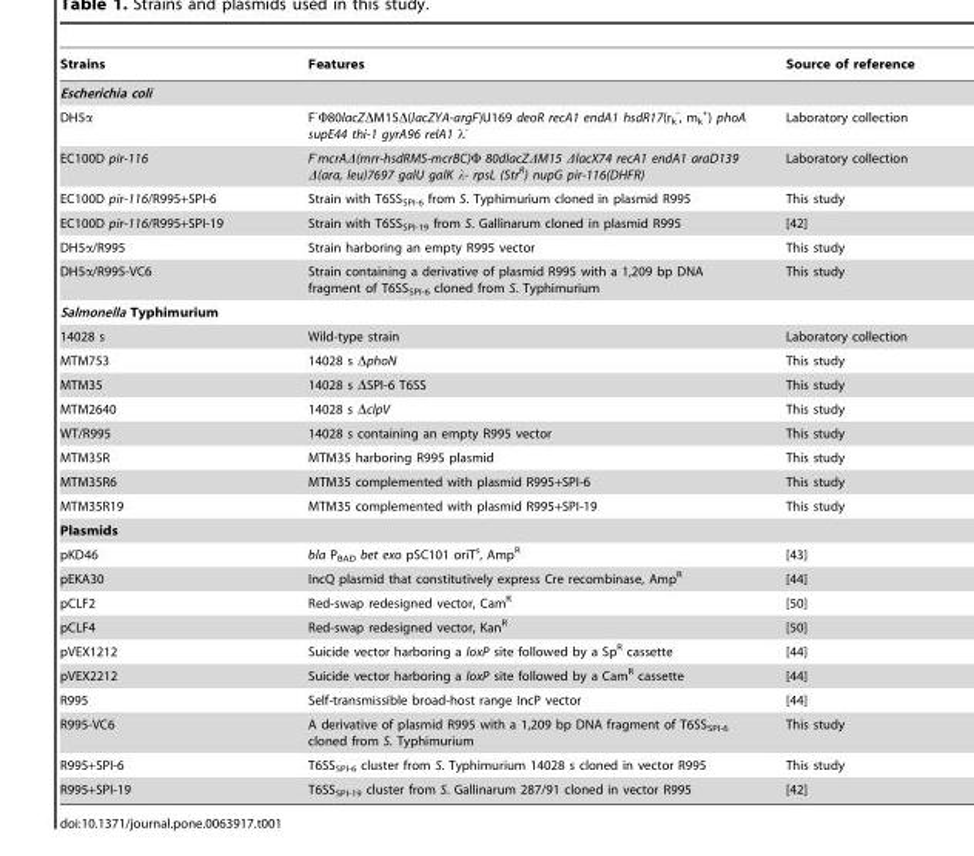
<table><thead><tr><td>Strains</td><td>Features</td><td>Source of reference</td></tr></thead><tbody><tr><td colspan="3">Escherichia coli</td></tr><tr><td>DH5α</td><td>F<sup>-</sup>Φ80lacZΔM15Δ(lacZYA-argF)U169 deoR recA1 endA1 hsdR17(r<sub>k</sub> <sup>-</sup>, m<sub>k</sub> <sup>+</sup>) phoA supE44 thi-1 gyrA96 relA1 λ<sup>-</sup></td><td>Laboratory collection</td></tr><tr><td>EC100D pir-116</td><td>F<sup>-</sup>mcrAΔ(mrr-hsdRMS-mcrBC)Φ 80dlacZΔM15 ΔlacX74 recA1 endA1 araD139 Δ(ara, leu)7697 galU galK λ- rpsL (Str<sup>R</sup>) nupG pir-116(DHFR)</td><td>Laboratory collection</td></tr><tr><td>EC100D pir-116/R995+SPI-6</td><td>Strain with T6SS<sub>SPI-6</sub> from S. Typhimurium cloned in plasmid R995</td><td>This study</td></tr><tr><td>EC100D pir-116/R995+SPI-19</td><td>Strain with T6SS<sub>SPI-19</sub> from S. Gallinarum cloned in plasmid R995</td><td>[42]</td></tr><tr><td>DH5α/R995</td><td>Strain harboring an empty R995 vector</td><td>This study</td></tr><tr><td>DH5α/R995-VC6</td><td>Strain containing a derivative of plasmid R995 with a 1,209 bp DNA fragment of T6SS<sub>SPI-6</sub> cloned from S. Typhimurium</td><td>This study</td></tr><tr><td colspan="3">Salmonella Typhimurium</td></tr><tr><td>14028 s</td><td>Wild-type strain</td><td>Laboratory collection</td></tr><tr><td>MTM753</td><td>14028 s ΔphoN</td><td>This study</td></tr><tr><td>MTM35</td><td>14028 s ΔSPI-6 T6SS</td><td>This study</td></tr><tr><td>MTM2640</td><td>14028 s ΔclpV</td><td>This study</td></tr><tr><td>WT/R995</td><td>14028 s containing an empty R995 vector</td><td>This study</td></tr><tr><td>MTM35R</td><td>MTM35 harboring R995 plasmid</td><td>This study</td></tr><tr><td>MTM35R6</td><td>MTM35 complemented with plasmid R995+SPI-6</td><td>This study</td></tr><tr><td>MTM35R19</td><td>MTM35 complemented with plasmid R995+SPI-19</td><td>This study</td></tr><tr><td colspan="3">Plasmids</td></tr><tr><td>pKD46</td><td>bla P<sub>BAD</sub> bet exo pSC101 oriT<sup>s</sup>, Amp<sup>R</sup></td><td>[43]</td></tr><tr><td>pEKA30</td><td>IncQ plasmid that constitutively express Cre recombinase, Amp<sup>R</sup></td><td>[44]</td></tr><tr><td>pCLF2</td><td>Red-swap redesigned vector, Cam<sup>R</sup></td><td>[50]</td></tr><tr><td>pCLF4</td><td>Red-swap redesigned vector, Kan<sup>R</sup></td><td>[50]</td></tr><tr><td>pVEX1212</td><td>Suicide vector harboring a loxP site followed by a Sp<sup>R</sup> cassette</td><td>[44]</td></tr><tr><td>pVEX2212</td><td>Suicide vector harboring a loxP site followed by a Cam<sup>R</sup> cassette</td><td>[44]</td></tr><tr><td>R995</td><td>Self-transmissible broad-host range IncP vector</td><td>[44]</td></tr><tr><td>R995-VC6</td><td>A derivative of plasmid R995 with a 1,209 bp DNA fragment of T6SS<sub>SPI-6</sub> cloned from S. Typhimurium</td><td>This study</td></tr><tr><td>R995+SPI-6</td><td>T6SSSPI-6 cluster from S. Typhimurium 14028 s cloned in vector R995</td><td>This study</td></tr><tr><td>R995+SPI-19</td><td>T6SS<sub>SPI-19</sub> cluster from S. Gallinarum 287/91 cloned in vector R995</td><td>[42]</td></tr></tbody></table>